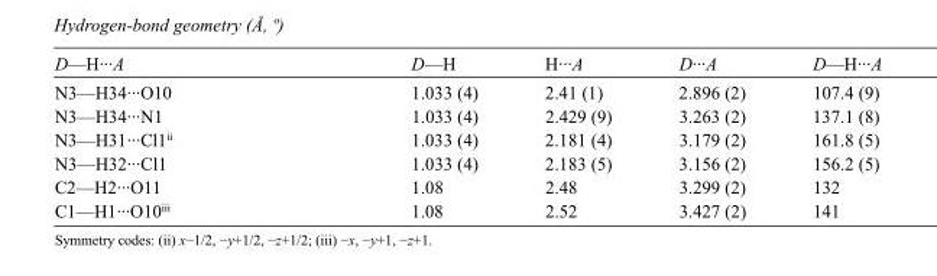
<table><tbody><tr><td>D—H···A</td><td>D—H</td><td>H···A</td><td>D···A</td><td>D—H···A</td></tr><tr><td>N3—H34···O10</td><td>1.033 (4)</td><td>2.41 (1)</td><td>2.896 (2)</td><td>107.4 (9)</td></tr><tr><td>N3—H34···N1</td><td>1.033 (4)</td><td>2.429 (9)</td><td>3.263 (2)</td><td>137.1 (8)</td></tr><tr><td>N3—H31···Cl1<sup>ii</sup></td><td>1.033 (4)</td><td>2.181 (4)</td><td>3.179 (2)</td><td>161.8 (5)</td></tr><tr><td>N3—H32···Cl1</td><td>1.033 (4)</td><td>2.183 (5)</td><td>3.156 (2)</td><td>156.2 (5)</td></tr><tr><td>C2—H2···O11</td><td>1.08</td><td>2.48</td><td>3.299 (2)</td><td>132</td></tr><tr><td>C1—H1···O10<sup>iii</sup></td><td>1.08</td><td>2.52</td><td>3.427 (2)</td><td>141</td></tr></tbody></table>